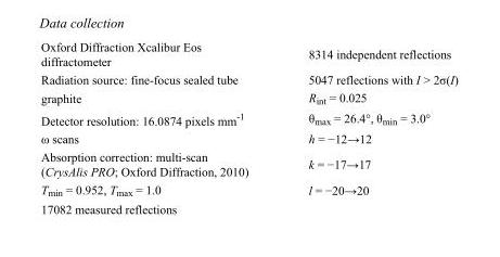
<table><tbody><tr><td>Oxford Diffraction Xcalibur Eos diffractometer</td><td>8314 independent reflections</td></tr><tr><td>Radiation source: fine-focus sealed tube</td><td>5047 reflections with I &gt; 2σ(I)</td></tr><tr><td>graphite</td><td>R<sub>int</sub> = 0.025</td></tr><tr><td>Detector resolution: 16.0874 pixels mm<sup>-1</sup></td><td>θ<sub>max</sub> = 26.4°, θ<sub>min</sub> = 3.0°</td></tr><tr><td>ω scans</td><td>h = −12→12</td></tr><tr><td>Absorption correction: multi-scan (CrysAlis PRO; Oxford Diffraction, 2010)</td><td>k = −17→17</td></tr><tr><td>T<sub>min</sub> = 0.952, T<sub>max</sub> = 1.0</td><td>l = −20→20</td></tr><tr><td>17082 measured reflections</td><td></td></tr></tbody></table>